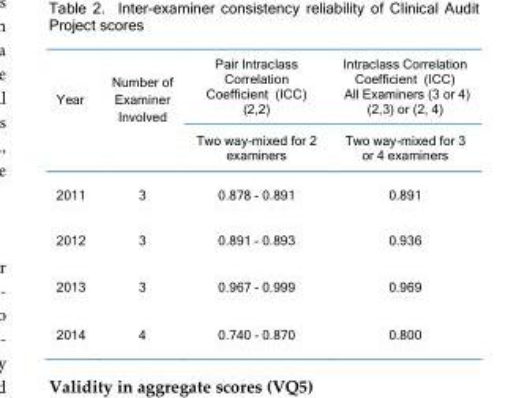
<table><thead><tr><td rowspan="2">Year</td><td rowspan="2">Number of Examiner Involved</td><td rowspan="2">Pair Intraclass Correlation Coefficient (ICC) (2,2) Two way-mixed for 2 examiners</td><td rowspan="2">Intraclass Correlation Coefficient (ICC) All Examiners (3 or 4) (2,3) or (2, 4) Two way-mixed for 3 or 4 examiners</td></tr><tr></tr></thead><tbody><tr><td>2011</td><td>3</td><td>0.878 - 0.891</td><td>0.891</td></tr><tr><td>2012</td><td>3</td><td>0.891 - 0.893</td><td>0.936</td></tr><tr><td>2013</td><td>3</td><td>0.967 - 0.999</td><td>0.969</td></tr><tr><td>2014</td><td>4</td><td>0.740 - 0.870</td><td>0.800</td></tr></tbody></table>